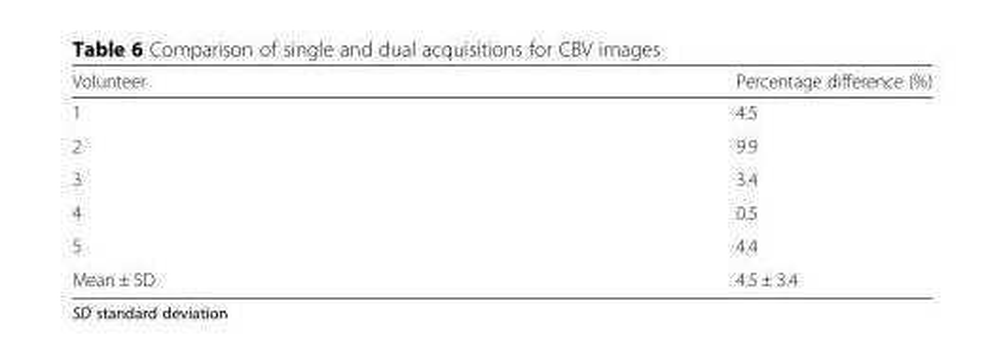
<table><thead><tr><td>Volunteer</td><td>Percentage difference (%)</td></tr></thead><tbody><tr><td>1</td><td>4.5</td></tr><tr><td>2</td><td>9.9</td></tr><tr><td>3</td><td>3.4</td></tr><tr><td>4</td><td>0.5</td></tr><tr><td>5</td><td>4.4</td></tr><tr><td>Mean ± SD</td><td>4.5 ± 3.4</td></tr></tbody></table>